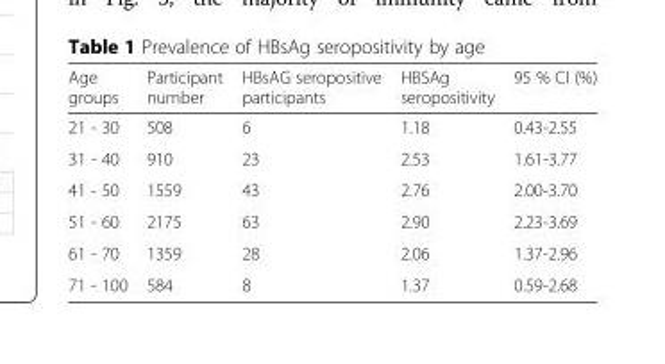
<table><thead><tr><td>Age groups</td><td>Participant number</td><td>HBsAG seropositive participants</td><td>HBSAg seropositivity</td><td>95 % CI (%)</td></tr></thead><tbody><tr><td>21 - 30</td><td>508</td><td>6</td><td>1.18</td><td>0.43-2.55</td></tr><tr><td>31 - 40</td><td>910</td><td>23</td><td>2.53</td><td>1.61-3.77</td></tr><tr><td>41 - 50</td><td>1559</td><td>43</td><td>2.76</td><td>2.00-3.70</td></tr><tr><td>51 - 60</td><td>2175</td><td>63</td><td>2.90</td><td>2.23-3.69</td></tr><tr><td>61 - 70</td><td>1359</td><td>28</td><td>2.06</td><td>1.37-2.96</td></tr><tr><td>71 - 100</td><td>584</td><td>8</td><td>1.37</td><td>0.59-2.68</td></tr></tbody></table>